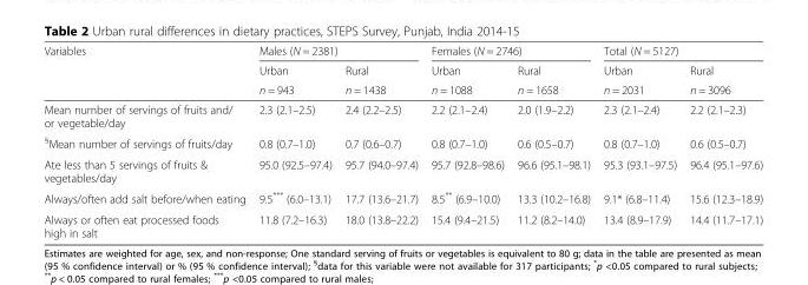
<table><thead><tr><td rowspan="3">Variables</td><td colspan="2">Males (N = 2381)</td><td colspan="2">Females (N = 2746)</td><td colspan="2">Total (N = 5127)</td></tr><tr><td rowspan="2">Urban n = 943</td><td rowspan="2">Rural n = 1438</td><td rowspan="2">Urban n = 1088</td><td rowspan="2">Rural n = 1658</td><td rowspan="2">Urban n = 2031</td><td rowspan="2">Rural n = 3096</td></tr><tr></tr></thead><tbody><tr><td>Mean number of servings of fruits and/ or vegetable/day</td><td>2.3 (2.1–2.5)</td><td>2.4 (2.2–2.5)</td><td>2.2 (2.1–2.4)</td><td>2.0 (1.9–2.2)</td><td>2.3 (2.1–2.4)</td><td>2.2 (2.1–2.3)</td></tr><tr><td><sup>§</sup>Mean number of servings of fruits/day</td><td>0.8 (0.7–1.0)</td><td>0.7 (0.6–0.7)</td><td>0.8 (0.7–1.0)</td><td>0.6 (0.5–0.7)</td><td>0.8 (0.7–1.0)</td><td>0.6 (0.5–0.7)</td></tr><tr><td>Ate less than 5 servings of fruits &amp; vegetables/day</td><td>95.0 (92.5–97.4)</td><td>95.7 (94.0–97.4)</td><td>95.7 (92.8–98.6)</td><td>96.6 (95.1–98.1)</td><td>95.3 (93.1–97.5)</td><td>96.4 (95.1–97.6)</td></tr><tr><td>Always/often add salt before/when eating</td><td>9.5*** (6.0–13.1)</td><td>17.7 (13.6–21.7)</td><td>8.5** (6.9–10.0)</td><td>13.3 (10.2–16.8)</td><td>9.1* (6.8–11.4)</td><td>15.6 (12.3–18.9)</td></tr><tr><td>Always or often eat processed foods high in salt</td><td>11.8 (7.2–16.3)</td><td>18.0 (13.8–22.2)</td><td>15.4 (9.4–21.5)</td><td>11.2 (8.2–14.0)</td><td>13.4 (8.9–17.9)</td><td>14.4 (11.7–17.1)</td></tr></tbody></table>